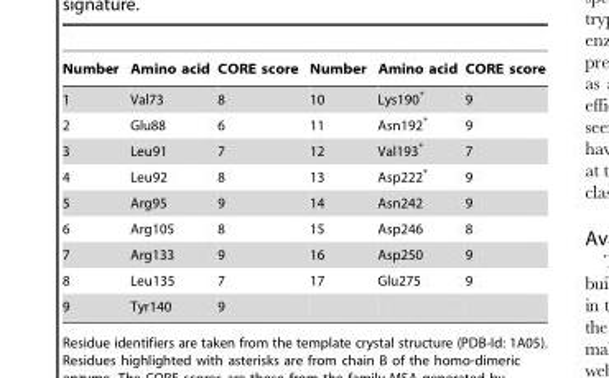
<table><thead><tr><td>Number</td><td>Amino acid</td><td>CORE score</td><td>Number</td><td>Amino acid</td><td>CORE score</td></tr></thead><tbody><tr><td>1</td><td>Val73</td><td>8</td><td>10</td><td>Lys190*</td><td>9</td></tr><tr><td>2</td><td>Glu88</td><td>6</td><td>11</td><td>Asn192*</td><td>9</td></tr><tr><td>3</td><td>Leu91</td><td>7</td><td>12</td><td>Val193*</td><td>7</td></tr><tr><td>4</td><td>Leu92</td><td>8</td><td>13</td><td>Asp222*</td><td>9</td></tr><tr><td>5</td><td>Arg95</td><td>9</td><td>14</td><td>Asn242</td><td>9</td></tr><tr><td>6</td><td>Arg105</td><td>8</td><td>15</td><td>Asp246</td><td>8</td></tr><tr><td>7</td><td>Arg133</td><td>9</td><td>16</td><td>Asp250</td><td>9</td></tr><tr><td>8</td><td>Leu135</td><td>7</td><td>17</td><td>Glu275</td><td>9</td></tr><tr><td>9</td><td>Tyr140</td><td>9</td><td></td><td></td><td></td></tr></tbody></table>